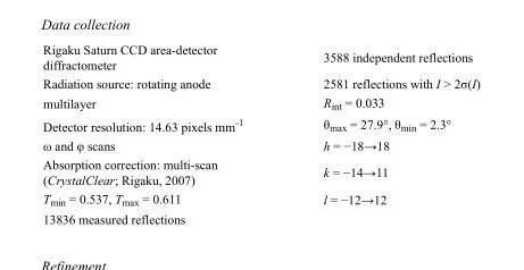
<table><tbody><tr><td>Rigaku Saturn CCD area-detector diffractometer</td><td>3588 independent reflections</td></tr><tr><td>Radiation source: rotating anode</td><td>2581 reflections with I &gt; 2σ(I)</td></tr><tr><td>multilayer</td><td>R<sub>int</sub> = 0.033</td></tr><tr><td>Detector resolution: 14.63 pixels mm<sup>-1</sup></td><td>θ<sub>max</sub> = 27.9°, θ<sub>min</sub> = 2.3°</td></tr><tr><td>ω and φ scans</td><td>h = −18→18</td></tr><tr><td>Absorption correction: multi-scan (CrystalClear; Rigaku, 2007)</td><td>k = −14→11</td></tr><tr><td>T<sub>min</sub> = 0.537, T<sub>max</sub> = 0.611</td><td>l = −12→12</td></tr><tr><td>13836 measured reflections</td><td></td></tr></tbody></table>